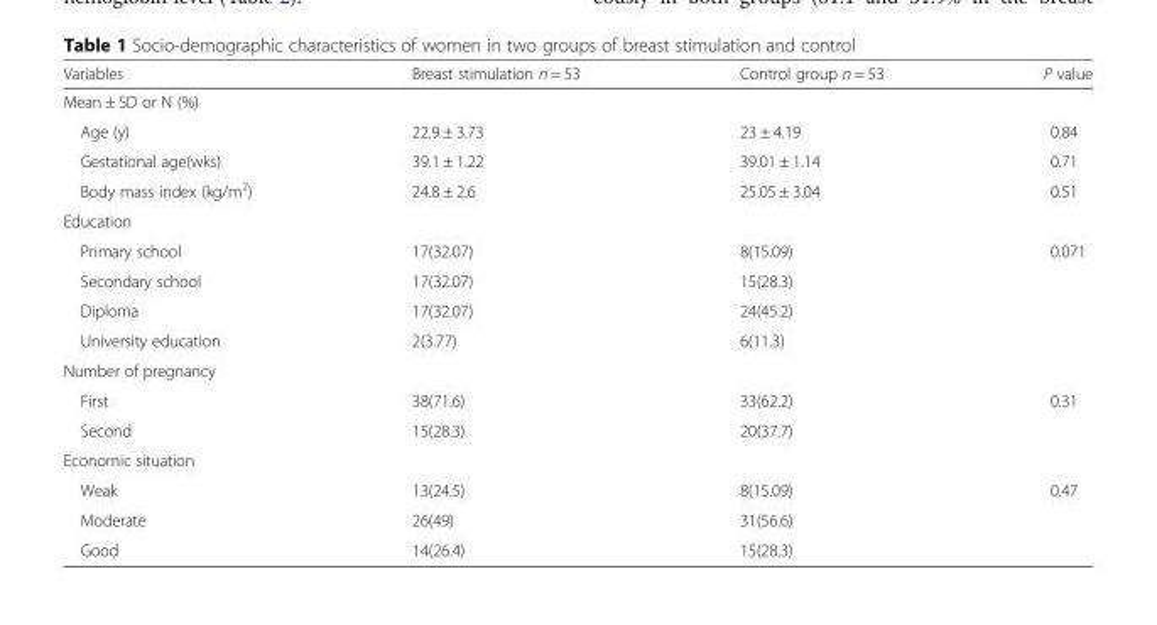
<table><thead><tr><td>Variables</td><td>Breast stimulation n = 53</td><td>Control group n = 53</td><td>P value</td></tr></thead><tbody><tr><td colspan="4">Mean ± SD or N (%)</td></tr><tr><td>Age (y)</td><td>22.9 ± 3.73</td><td>23 ± 4.19</td><td>0.84</td></tr><tr><td>Gestational age(wks)</td><td>39.1 ± 1.22</td><td>39.01 ± 1.14</td><td>0.71</td></tr><tr><td>Body mass index (kg/m<sup>2</sup>)</td><td>24.8 ± 2.6</td><td>25.05 ± 3.04</td><td>0.51</td></tr><tr><td colspan="4">Education</td></tr><tr><td>Primary school</td><td>17(32.07)</td><td>8(15.09)</td><td rowspan="4">0.071</td></tr><tr><td>Secondary school</td><td>17(32.07)</td><td>15(28.3)</td></tr><tr><td>Diploma</td><td>17(32.07)</td><td>24(45.2)</td></tr><tr><td>University education</td><td>2(3.77)</td><td>6(11.3)</td></tr><tr><td colspan="4">Number of pregnancy</td></tr><tr><td>First</td><td>38(71.6)</td><td>33(62.2)</td><td rowspan="2">0.31</td></tr><tr><td>Second</td><td>15(28.3)</td><td>20(37.7)</td></tr><tr><td colspan="4">Economic situation</td></tr><tr><td>Weak</td><td>13(24.5)</td><td>8(15.09)</td><td rowspan="3">0.47</td></tr><tr><td>Moderate</td><td>26(49)</td><td>31(56.6)</td></tr><tr><td>Good</td><td>14(26.4)</td><td>15(28.3)</td></tr></tbody></table>